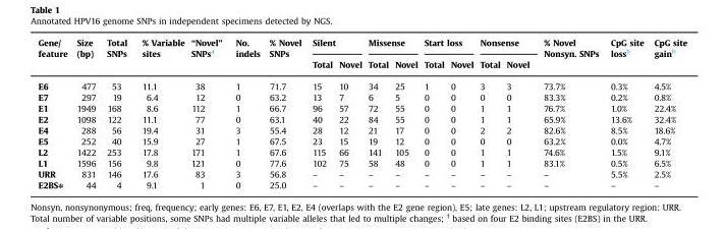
<table><thead><tr><td rowspan="2">Gene/ feature</td><td rowspan="2">Size (bp)</td><td rowspan="2">Total SNPs</td><td rowspan="2">% Variable sites</td><td rowspan="2">“Novel” SNPs<sup>a</sup></td><td rowspan="2">No. indels</td><td rowspan="2">% Novel SNPs</td><td colspan="2">Silent</td><td colspan="2">Missense</td><td colspan="2">Start loss</td><td colspan="2">Nonsense</td><td rowspan="2">% Novel Nonsyn. SNPs</td><td rowspan="2">CpG site loss<sup>b</sup></td><td rowspan="2">CpG site gain<sup>b</sup></td></tr><tr><td>Total</td><td>Novel</td><td>Total</td><td>Novel</td><td>Total</td><td>Novel</td><td>Total</td><td>Novel</td></tr></thead><tbody><tr><td>E6</td><td>477</td><td>53</td><td>11.1</td><td>38</td><td>1</td><td>71.7</td><td>15</td><td>10</td><td>34</td><td>25</td><td>1</td><td>0</td><td>3</td><td>3</td><td>73.7%</td><td>0.3%</td><td>4.5%</td></tr><tr><td>E7</td><td>297</td><td>19</td><td>6.4</td><td>12</td><td>0</td><td>63.2</td><td>13</td><td>7</td><td>6</td><td>5</td><td>0</td><td>0</td><td>0</td><td>0</td><td>83.3%</td><td>0.2%</td><td>0.8%</td></tr><tr><td>E1</td><td>1949</td><td>168</td><td>8.6</td><td>112</td><td>1</td><td>66.7</td><td>96</td><td>57</td><td>72</td><td>55</td><td>0</td><td>0</td><td>1</td><td>1</td><td>76.7%</td><td>1.0%</td><td>22.4%</td></tr><tr><td>E2</td><td>1098</td><td>122</td><td>11.1</td><td>77</td><td>0</td><td>63.1</td><td>40</td><td>22</td><td>84</td><td>55</td><td>0</td><td>0</td><td>1</td><td>1</td><td>65.9%</td><td>13.6%</td><td>32.4%</td></tr><tr><td>E4</td><td>288</td><td>56</td><td>19.4</td><td>31</td><td>3</td><td>55.4</td><td>28</td><td>12</td><td>21</td><td>17</td><td>0</td><td>0</td><td>2</td><td>2</td><td>82.6%</td><td>8.5%</td><td>18.6%</td></tr><tr><td>E5</td><td>252</td><td>40</td><td>15.9</td><td>27</td><td>1</td><td>67.5</td><td>23</td><td>15</td><td>19</td><td>12</td><td>0</td><td>0</td><td>0</td><td>0</td><td>63.2%</td><td>0.0%</td><td>4.7%</td></tr><tr><td>L2</td><td>1422</td><td>253</td><td>17.8</td><td>171</td><td>1</td><td>67.6</td><td>115</td><td>66</td><td>141</td><td>105</td><td>0</td><td>0</td><td>1</td><td>1</td><td>74.6%</td><td>1.5%</td><td>9.1%</td></tr><tr><td>L1</td><td>1596</td><td>156</td><td>9.8</td><td>121</td><td>0</td><td>77.6</td><td>102</td><td>75</td><td>58</td><td>48</td><td>0</td><td>0</td><td>1</td><td>1</td><td>83.1%</td><td>0.5%</td><td>6.5%</td></tr><tr><td>URR</td><td>831</td><td>146</td><td>17.6</td><td>83</td><td>3</td><td>56.8</td><td>–</td><td>–</td><td>–</td><td>–</td><td>–</td><td>–</td><td>–</td><td>–</td><td>–</td><td>5.5%</td><td>2.5%</td></tr><tr><td>E2BS⁎</td><td>44</td><td>4</td><td>9.1</td><td>1</td><td>0</td><td>25.0</td><td>–</td><td>–</td><td>–</td><td>–</td><td>–</td><td>–</td><td>–</td><td>–</td><td>–</td><td>–</td><td>–</td></tr></tbody></table>